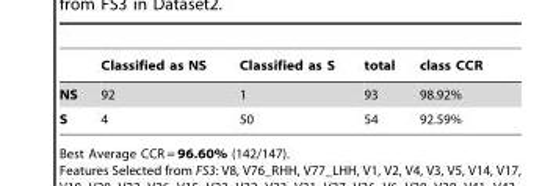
<table><thead><tr><td></td><td>Classified as NS</td><td>Classified as S</td><td>total</td><td>class CCR</td></tr></thead><tbody><tr><td>NS</td><td>92</td><td>1</td><td>93</td><td>98.92%</td></tr><tr><td>S</td><td>4</td><td>50</td><td>54</td><td>92.59%</td></tr></tbody></table>